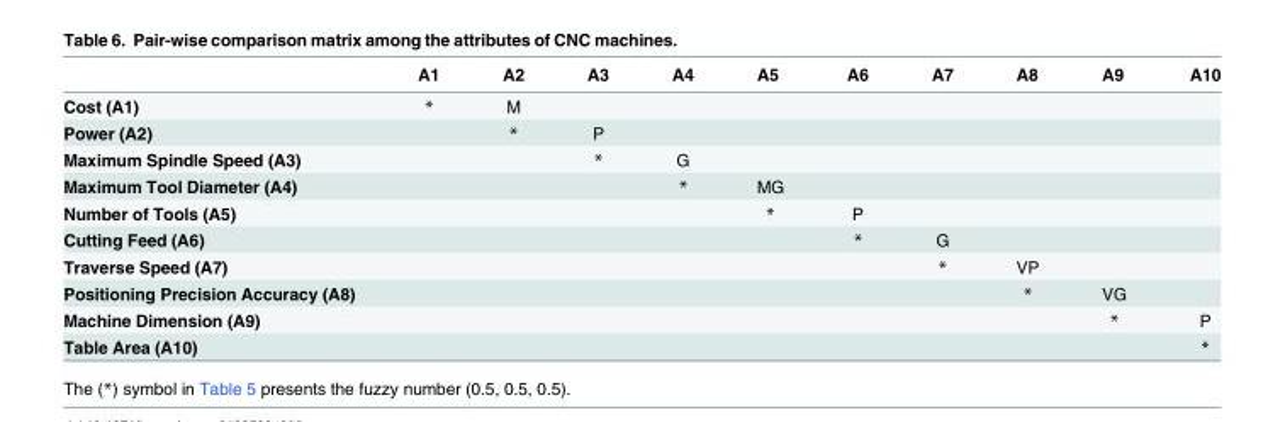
<table><thead><tr><td></td><td>A1</td><td>A2</td><td>A3</td><td>A4</td><td>A5</td><td>A6</td><td>A7</td><td>A8</td><td>A9</td><td>A10</td></tr></thead><tbody><tr><td>Cost (A1)</td><td>*</td><td>M</td><td></td><td></td><td></td><td></td><td></td><td></td><td></td><td></td></tr><tr><td>Power (A2)</td><td></td><td>*</td><td>P</td><td></td><td></td><td></td><td></td><td></td><td></td><td></td></tr><tr><td>Maximum Spindle Speed (A3)</td><td></td><td></td><td>*</td><td>G</td><td></td><td></td><td></td><td></td><td></td><td></td></tr><tr><td>Maximum Tool Diameter (A4)</td><td></td><td></td><td></td><td>*</td><td>MG</td><td></td><td></td><td></td><td></td><td></td></tr><tr><td>Number of Tools (A5)</td><td></td><td></td><td></td><td></td><td>*</td><td>P</td><td></td><td></td><td></td><td></td></tr><tr><td>Cutting Feed (A6)</td><td></td><td></td><td></td><td></td><td></td><td>*</td><td>G</td><td></td><td></td><td></td></tr><tr><td>Traverse Speed (A7)</td><td></td><td></td><td></td><td></td><td></td><td></td><td>*</td><td>VP</td><td></td><td></td></tr><tr><td>Positioning Precision Accuracy (A8)</td><td></td><td></td><td></td><td></td><td></td><td></td><td></td><td>*</td><td>VG</td><td></td></tr><tr><td>Machine Dimension (A9)</td><td></td><td></td><td></td><td></td><td></td><td></td><td></td><td></td><td>*</td><td>P</td></tr><tr><td>Table Area (A10)</td><td></td><td></td><td></td><td></td><td></td><td></td><td></td><td></td><td></td><td>*</td></tr></tbody></table>